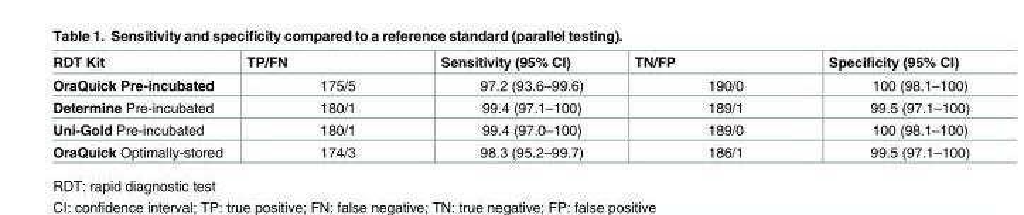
<table><thead><tr><td>RDT Kit</td><td>TP/FN</td><td>Sensitivity (95% CI)</td><td>TN/FP</td><td>Specificity (95% CI)</td></tr></thead><tbody><tr><td>OraQuick Pre-incubated</td><td>175/5</td><td>97.2 (93.6–99.6)</td><td>190/0</td><td>100 (98.1–100)</td></tr><tr><td>Determine Pre-incubated</td><td>180/1</td><td>99.4 (97.1–100)</td><td>189/1</td><td>99.5 (97.1–100)</td></tr><tr><td>Uni-Gold Pre-incubated</td><td>180/1</td><td>99.4 (97.0–100)</td><td>189/0</td><td>100 (98.1–100)</td></tr><tr><td>OraQuick Optimally-stored</td><td>174/3</td><td>98.3 (95.2–99.7)</td><td>186/1</td><td>99.5 (97.1–100)</td></tr></tbody></table>